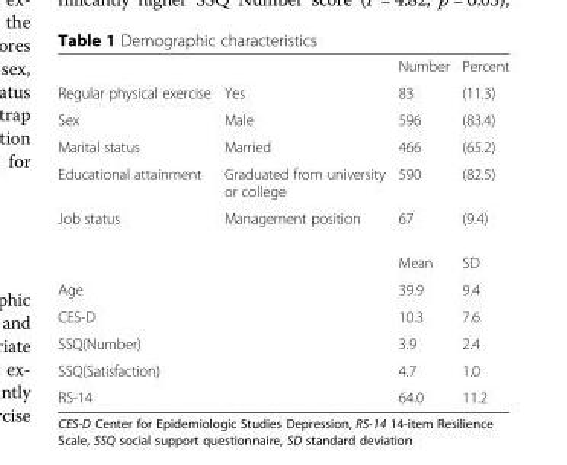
<table><thead><tr><td></td><td></td><td>Number</td><td>Percent</td></tr></thead><tbody><tr><td>Regular physical exercise</td><td>Yes</td><td>83</td><td>(11.3)</td></tr><tr><td>Sex</td><td>Male</td><td>596</td><td>(83.4)</td></tr><tr><td>Marital status</td><td>Married</td><td>466</td><td>(65.2)</td></tr><tr><td>Educational attainment</td><td>Graduated from university or college</td><td>590</td><td>(82.5)</td></tr><tr><td rowspan="2">Job status</td><td>Management position</td><td>67</td><td>(9.4)</td></tr><tr><td></td><td>Mean</td><td>SD</td></tr><tr><td colspan="2">Age</td><td>39.9</td><td>9.4</td></tr><tr><td colspan="2">CES-D</td><td>10.3</td><td>7.6</td></tr><tr><td colspan="2">SSQ(Number)</td><td>3.9</td><td>2.4</td></tr><tr><td colspan="2">SSQ(Satisfaction)</td><td>4.7</td><td>1.0</td></tr><tr><td>RS-14</td><td></td><td>64.0</td><td>11.2</td></tr></tbody></table>